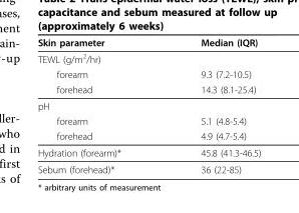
<table><thead><tr><td>Skin parameter</td><td>Median (IQR)</td></tr></thead><tbody><tr><td colspan="2">TEWL (g/m<sup>2</sup>/hr)</td></tr><tr><td>forearm</td><td>9.3 (7.2-10.5)</td></tr><tr><td>forehead</td><td>14.3 (8.1-25.4)</td></tr><tr><td colspan="2">pH</td></tr><tr><td>forearm</td><td>5.1 (4.8-5.4)</td></tr><tr><td>forehead</td><td>4.9 (4.7-5.4)</td></tr><tr><td>Hydration (forearm)*</td><td>45.8 (41.3-46.5)</td></tr><tr><td>Sebum (forehead)*</td><td>36 (22-85)</td></tr></tbody></table>